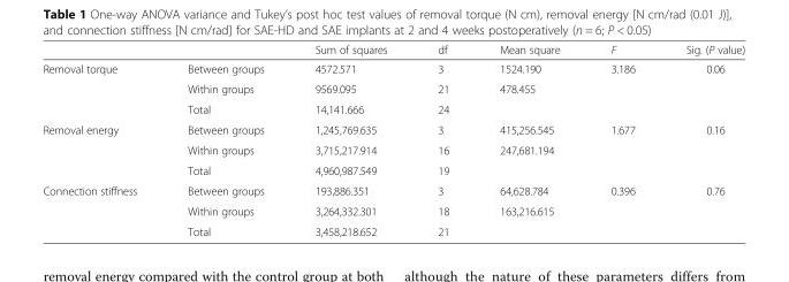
<table><thead><tr><td></td><td></td><td>Sum of squares</td><td>df</td><td>Mean square</td><td>F</td><td>Sig. (P value)</td></tr></thead><tbody><tr><td rowspan="3">Removal torque</td><td>Between groups</td><td>4572.571</td><td>3</td><td>1524.190</td><td>3.186</td><td>0.06</td></tr><tr><td>Within groups</td><td>9569.095</td><td>21</td><td>478.455</td><td></td><td></td></tr><tr><td>Total</td><td>14,141.666</td><td>24</td><td></td><td></td><td></td></tr><tr><td rowspan="3">Removal energy</td><td>Between groups</td><td>1,245,769.635</td><td>3</td><td>415,256.545</td><td>1.677</td><td>0.16</td></tr><tr><td>Within groups</td><td>3,715,217.914</td><td>16</td><td>247,681.194</td><td></td><td></td></tr><tr><td>Total</td><td>4,960,987.549</td><td>19</td><td></td><td></td><td></td></tr><tr><td rowspan="3">Connection stiffness</td><td>Between groups</td><td>193,886.351</td><td>3</td><td>64,628.784</td><td>0.396</td><td>0.76</td></tr><tr><td>Within groups</td><td>3,264,332.301</td><td>18</td><td>163,216.615</td><td></td><td></td></tr><tr><td>Total</td><td>3,458,218.652</td><td>21</td><td></td><td></td><td></td></tr></tbody></table>